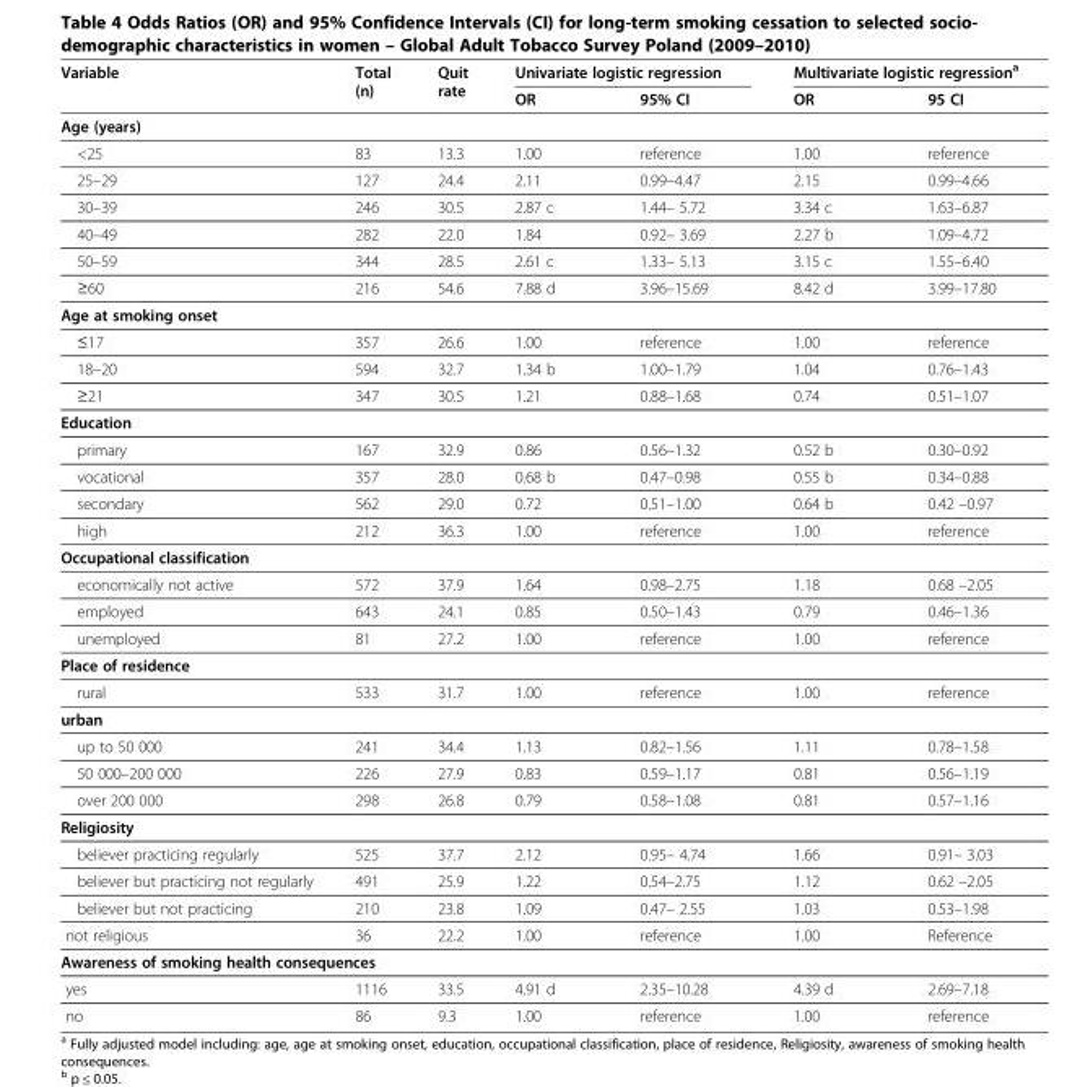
<table><thead><tr><td rowspan="2">Variable</td><td rowspan="2">Total (n)</td><td rowspan="2">Quit rate</td><td colspan="2">Univariate logistic regression</td><td colspan="2">Multivariate logistic regression<sup>a</sup></td></tr><tr><td>OR</td><td>95% CI</td><td>OR</td><td>95 CI</td></tr></thead><tbody><tr><td colspan="7">Age (years)</td></tr><tr><td>&lt;25</td><td>83</td><td>13.3</td><td>1.00</td><td>reference</td><td>1.00</td><td>reference</td></tr><tr><td>25–29</td><td>127</td><td>24.4</td><td>2.11</td><td>0.99–4.47</td><td>2.15</td><td>0.99–4.66</td></tr><tr><td>30–39</td><td>246</td><td>30.5</td><td>2.87 c</td><td>1.44– 5.72</td><td>3.34 c</td><td>1.63–6.87</td></tr><tr><td>40–49</td><td>282</td><td>22.0</td><td>1.84</td><td>0.92– 3.69</td><td>2.27 b</td><td>1.09–4.72</td></tr><tr><td>50–59</td><td>344</td><td>28.5</td><td>2.61 c</td><td>1.33– 5.13</td><td>3.15 c</td><td>1.55–6.40</td></tr><tr><td>≥60</td><td>216</td><td>54.6</td><td>7.88 d</td><td>3.96–15.69</td><td>8.42 d</td><td>3.99–17.80</td></tr><tr><td colspan="7">Age at smoking onset</td></tr><tr><td>≤17</td><td>357</td><td>26.6</td><td>1.00</td><td>reference</td><td>1.00</td><td>reference</td></tr><tr><td>18–20</td><td>594</td><td>32.7</td><td>1.34 b</td><td>1.00–1.79</td><td>1.04</td><td>0.76–1.43</td></tr><tr><td>≥21</td><td>347</td><td>30.5</td><td>1.21</td><td>0.88–1.68</td><td>0.74</td><td>0.51–1.07</td></tr><tr><td colspan="7">Education</td></tr><tr><td>primary</td><td>167</td><td>32.9</td><td>0.86</td><td>0.56–1.32</td><td>0.52 b</td><td>0.30–0.92</td></tr><tr><td>vocational</td><td>357</td><td>28.0</td><td>0.68 b</td><td>0.47–0.98</td><td>0.55 b</td><td>0.34–0.88</td></tr><tr><td>secondary</td><td>562</td><td>29.0</td><td>0.72</td><td>0.51–1.00</td><td>0.64 b</td><td>0.42 –0.97</td></tr><tr><td>high</td><td>212</td><td>36.3</td><td>1.00</td><td>reference</td><td>1.00</td><td>reference</td></tr><tr><td colspan="7">Occupational classification</td></tr><tr><td>economically not active</td><td>572</td><td>37.9</td><td>1.64</td><td>0.98–2.75</td><td>1.18</td><td>0.68 –2.05</td></tr><tr><td>employed</td><td>643</td><td>24.1</td><td>0.85</td><td>0.50–1.43</td><td>0.79</td><td>0.46–1.36</td></tr><tr><td>unemployed</td><td>81</td><td>27.2</td><td>1.00</td><td>reference</td><td>1.00</td><td>reference</td></tr><tr><td colspan="7">Place of residence</td></tr><tr><td>rural</td><td>533</td><td>31.7</td><td>1.00</td><td>reference</td><td>1.00</td><td>reference</td></tr><tr><td colspan="7">urban</td></tr><tr><td>up to 50 000</td><td>241</td><td>34.4</td><td>1.13</td><td>0.82–1.56</td><td>1.11</td><td>0.78–1.58</td></tr><tr><td>50 000–200 000</td><td>226</td><td>27.9</td><td>0.83</td><td>0.59–1.17</td><td>0.81</td><td>0.56–1.19</td></tr><tr><td>over 200 000</td><td>298</td><td>26.8</td><td>0.79</td><td>0.58–1.08</td><td>0.81</td><td>0.57–1.16</td></tr><tr><td colspan="7">Religiosity</td></tr><tr><td>believer practicing regularly</td><td>525</td><td>37.7</td><td>2.12</td><td>0.95– 4.74</td><td>1.66</td><td>0.91– 3.03</td></tr><tr><td>believer but practicing not regularly</td><td>491</td><td>25.9</td><td>1.22</td><td>0.54–2.75</td><td>1.12</td><td>0.62 –2.05</td></tr><tr><td>believer but not practicing</td><td>210</td><td>23.8</td><td>1.09</td><td>0.47– 2.55</td><td>1.03</td><td>0.53–1.98</td></tr><tr><td>not religious</td><td>36</td><td>22.2</td><td>1.00</td><td>reference</td><td>1.00</td><td>Reference</td></tr><tr><td colspan="7">Awareness of smoking health consequences</td></tr><tr><td>yes</td><td>1116</td><td>33.5</td><td>4.91 d</td><td>2.35–10.28</td><td>4.39 d</td><td>2.69–7.18</td></tr><tr><td>no</td><td>86</td><td>9.3</td><td>1.00</td><td>reference</td><td>1.00</td><td>reference</td></tr></tbody></table>